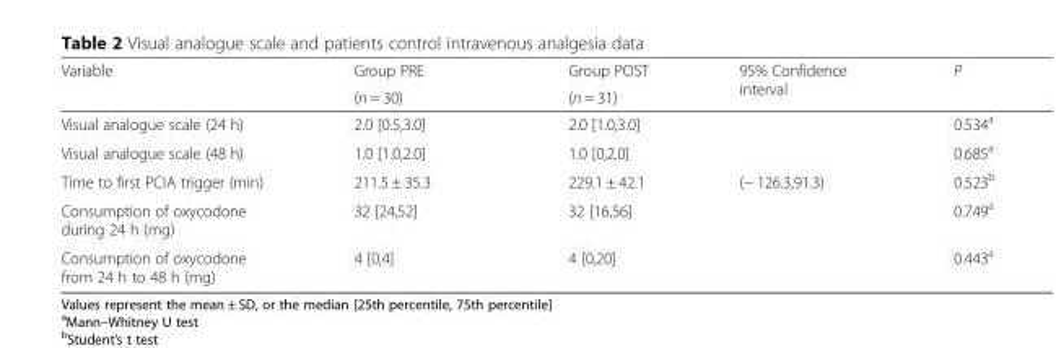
<table><thead><tr><td rowspan="2">Variable</td><td rowspan="2">Group PRE (n = 30)</td><td rowspan="2">Group POST (n = 31)</td><td rowspan="2">95% Confidence interval</td><td rowspan="2">P</td></tr><tr></tr></thead><tbody><tr><td>Visual analogue scale (24 h)</td><td>2.0 [0.5,3.0]</td><td>2.0 [1.0,3.0]</td><td></td><td>0.534a</td></tr><tr><td>Visual analogue scale (48 h)</td><td>1.0 [1.0,2.0]</td><td>1.0 [0,2.0]</td><td></td><td>0.685a</td></tr><tr><td>Time to first PCIA trigger (min)</td><td>211.5 ± 35.3</td><td>229.1 ± 42.1</td><td>(− 126.3,91.3)</td><td>0.523b</td></tr><tr><td>Consumption of oxycodone during 24 h (mg)</td><td>32 [24,52]</td><td>32 [16,56]</td><td></td><td>0.749a</td></tr><tr><td>Consumption of oxycodone from 24 h to 48 h (mg)</td><td>4 [0,4]</td><td>4 [0,20]</td><td></td><td>0.443a</td></tr></tbody></table>